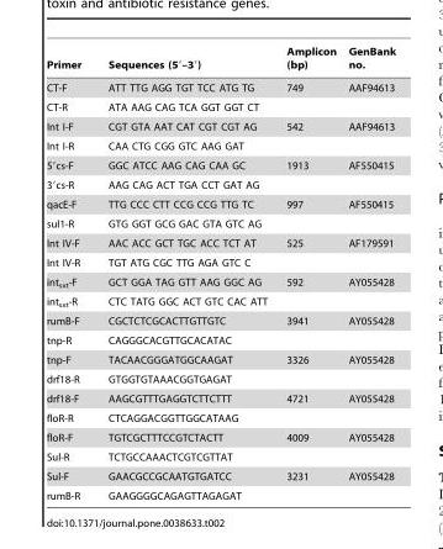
<table><thead><tr><td>Primer</td><td>Sequences (5′–3′)</td><td>Amplicon (bp)</td><td>GenBank no.</td></tr></thead><tbody><tr><td>CT-F</td><td>ATT TTG AGG TGT TCC ATG TG</td><td>749</td><td>AAF94613</td></tr><tr><td>CT-R</td><td>ATA AAG CAG TCA GGT GGT CT</td><td></td><td></td></tr><tr><td>Int I-F</td><td>CGT GTA AAT CAT CGT CGT AG</td><td>542</td><td>AAF94613</td></tr><tr><td>Int I-R</td><td>CAA CTG CGG GTC AAG GAT</td><td></td><td></td></tr><tr><td>5′cs-F</td><td>GGC ATCC AAG CAG CAA GC</td><td>1913</td><td>AF550415</td></tr><tr><td>3′cs-R</td><td>AAG CAG ACT TGA CCT GAT AG</td><td></td><td></td></tr><tr><td>qacE-F</td><td>TTG CCC CTT CCG CCG TTG TC</td><td>997</td><td>AF550415</td></tr><tr><td>sul1-R</td><td>GTG GGT GCG GAC GTA GTC AG</td><td></td><td></td></tr><tr><td>Int IV-F</td><td>AAC ACC GCT TGC ACC TCT AT</td><td>525</td><td>AF179591</td></tr><tr><td>Int IV-R</td><td>TGT ATG CGC TTG AGA GTC C</td><td></td><td></td></tr><tr><td>int<sub>sxt</sub>-F</td><td>GCT GGA TAG GTT AAG GGC AG</td><td>592</td><td>AY055428</td></tr><tr><td>int<sub>sxt</sub>-R</td><td>CTC TATG GGC ACT GTC CAC ATT</td><td></td><td></td></tr><tr><td>rumB-F</td><td>CGCTCTCGCACTTGTTGTC</td><td>3941</td><td>AY055428</td></tr><tr><td>tnp-R</td><td>CAGGGCACGTTGCACATAC</td><td></td><td></td></tr><tr><td>tnp-F</td><td>TACAACGGGATGGCAAGAT</td><td>3326</td><td>AY055428</td></tr><tr><td>drf18-R</td><td>GTGGTGTAAACGGTGAGAT</td><td></td><td></td></tr><tr><td>drf18-F</td><td>AAGCGTTTGAGGTCTTCTTT</td><td>4721</td><td>AY055428</td></tr><tr><td>floR-R</td><td>CTCAGGACGGTTGGCATAAG</td><td></td><td></td></tr><tr><td>floR-F</td><td>TGTCGCTTTCCGTCTACTT</td><td>4009</td><td>AY055428</td></tr><tr><td>Sul-R</td><td>TCTGCCAAACTCGTCGTTAT</td><td></td><td></td></tr><tr><td>Sul-F</td><td>GAACGCCGCAATGTGATCC</td><td>3231</td><td>AY055428</td></tr><tr><td>rumB-R</td><td>GAAGGGGCAGAGTTAGAGAT</td><td></td><td></td></tr></tbody></table>